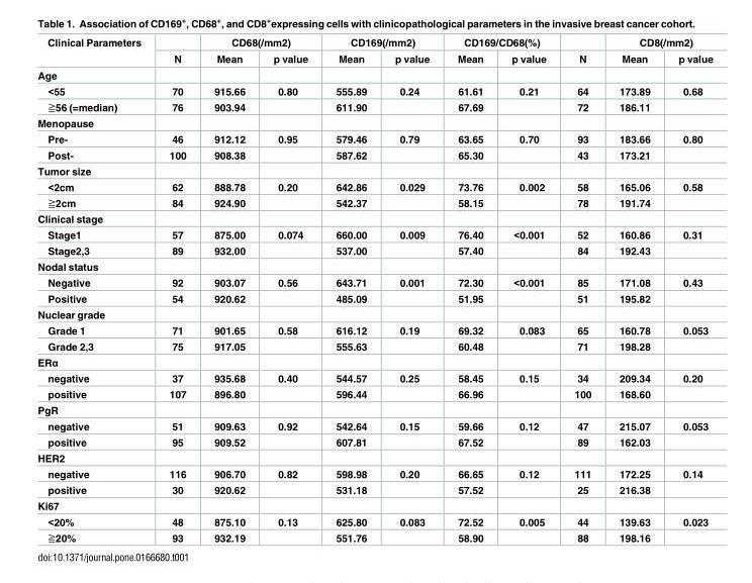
<table><thead><tr><td rowspan="2">Clinical Parameters</td><td rowspan="2">N</td><td colspan="2">CD68(/mm2)</td><td colspan="2">CD169(/mm2)</td><td colspan="2">CD169/CD68(%)</td><td rowspan="2">N</td><td colspan="2">CD8(/mm2)</td></tr><tr><td>Mean</td><td>p value</td><td>Mean</td><td>p value</td><td>Mean</td><td>p value</td><td>Mean</td><td>p value</td></tr></thead><tbody><tr><td colspan="11">Age</td></tr><tr><td>&lt;55</td><td>70</td><td>915.66</td><td>0.80</td><td>555.89</td><td>0.24</td><td>61.61</td><td>0.21</td><td>64</td><td>173.89</td><td>0.68</td></tr><tr><td>≧56 (=median)</td><td>76</td><td>903.94</td><td></td><td>611.90</td><td></td><td>67.69</td><td></td><td>72</td><td>186.11</td><td></td></tr><tr><td colspan="11">Menopause</td></tr><tr><td>Pre-</td><td>46</td><td>912.12</td><td>0.95</td><td>579.46</td><td>0.79</td><td>63.65</td><td>0.70</td><td>93</td><td>183.66</td><td>0.80</td></tr><tr><td>Post-</td><td>100</td><td>908.38</td><td></td><td>587.62</td><td></td><td>65.30</td><td></td><td>43</td><td>173.21</td><td></td></tr><tr><td colspan="11">Tumor size</td></tr><tr><td>&lt;2cm</td><td>62</td><td>888.78</td><td>0.20</td><td>642.86</td><td>0.029</td><td>73.76</td><td>0.002</td><td>58</td><td>165.06</td><td>0.58</td></tr><tr><td>≧2cm</td><td>84</td><td>924.90</td><td></td><td>542.37</td><td></td><td>58.15</td><td></td><td>78</td><td>191.74</td><td></td></tr><tr><td colspan="11">Clinical stage</td></tr><tr><td>Stage1</td><td>57</td><td>875.00</td><td>0.074</td><td>660.00</td><td>0.009</td><td>76.40</td><td>&lt;0.001</td><td>52</td><td>160.86</td><td>0.31</td></tr><tr><td>Stage2,3</td><td>89</td><td>932.00</td><td></td><td>537.00</td><td></td><td>57.40</td><td></td><td>84</td><td>192.43</td><td></td></tr><tr><td colspan="11">Nodal status</td></tr><tr><td>Negative</td><td>92</td><td>903.07</td><td>0.56</td><td>643.71</td><td>0.001</td><td>72.30</td><td>&lt;0.001</td><td>85</td><td>171.08</td><td>0.43</td></tr><tr><td>Positive</td><td>54</td><td>920.62</td><td></td><td>485.09</td><td></td><td>51.95</td><td></td><td>51</td><td>195.82</td><td></td></tr><tr><td colspan="11">Nuclear grade</td></tr><tr><td>Grade 1</td><td>71</td><td>901.65</td><td>0.58</td><td>616.12</td><td>0.19</td><td>69.32</td><td>0.083</td><td>65</td><td>160.78</td><td>0.053</td></tr><tr><td>Grade 2,3</td><td>75</td><td>917.05</td><td></td><td>555.63</td><td></td><td>60.48</td><td></td><td>71</td><td>198.28</td><td></td></tr><tr><td colspan="11">ERα</td></tr><tr><td>negative</td><td>37</td><td>935.68</td><td>0.40</td><td>544.57</td><td>0.25</td><td>58.45</td><td>0.15</td><td>34</td><td>209.34</td><td>0.20</td></tr><tr><td>positive</td><td>107</td><td>896.80</td><td></td><td>596.44</td><td></td><td>66.96</td><td></td><td>100</td><td>168.60</td><td></td></tr><tr><td colspan="11">PgR</td></tr><tr><td>negative</td><td>51</td><td>909.63</td><td>0.92</td><td>542.64</td><td>0.15</td><td>59.66</td><td>0.12</td><td>47</td><td>215.07</td><td>0.053</td></tr><tr><td>positive</td><td>95</td><td>909.52</td><td></td><td>607.81</td><td></td><td>67.52</td><td></td><td>89</td><td>162.03</td><td></td></tr><tr><td colspan="11">HER2</td></tr><tr><td>negative</td><td>116</td><td>906.70</td><td>0.82</td><td>598.98</td><td>0.20</td><td>66.65</td><td>0.12</td><td>111</td><td>172.25</td><td>0.14</td></tr><tr><td>positive</td><td>30</td><td>920.62</td><td></td><td>531.18</td><td></td><td>57.52</td><td></td><td>25</td><td>216.38</td><td></td></tr><tr><td colspan="11">Ki67</td></tr><tr><td>&lt;20%</td><td>48</td><td>875.10</td><td>0.13</td><td>625.80</td><td>0.083</td><td>72.52</td><td>0.005</td><td>44</td><td>139.63</td><td>0.023</td></tr><tr><td>≧20%</td><td>93</td><td>932.19</td><td></td><td>551.76</td><td></td><td>58.90</td><td></td><td>88</td><td>198.16</td><td></td></tr></tbody></table>